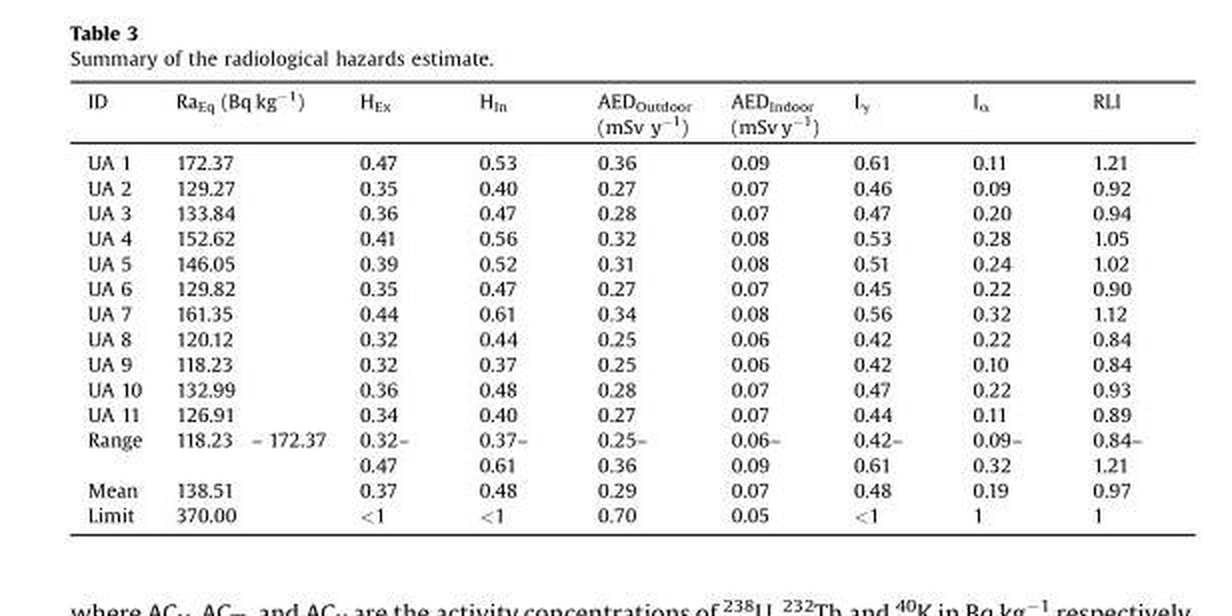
<table><thead><tr><td>ID</td><td>Ra<sub>Eq</sub> (Bq kg<sup>−1</sup>)</td><td>H<sub>Ex</sub></td><td>H<sub>In</sub></td><td>AED<sub>Outdoor</sub> (mSv y<sup>−1</sup>)</td><td>AED<sub>Indoor</sub> (mSv y<sup>−1</sup>)</td><td>I<sub>γ</sub></td><td>I<sub>α</sub></td><td>RLI</td></tr></thead><tbody><tr><td>UA 1</td><td>172.37</td><td>0.47</td><td>0.53</td><td>0.36</td><td>0.09</td><td>0.61</td><td>0.11</td><td>1.21</td></tr><tr><td>UA 2</td><td>129.27</td><td>0.35</td><td>0.40</td><td>0.27</td><td>0.07</td><td>0.46</td><td>0.09</td><td>0.92</td></tr><tr><td>UA 3</td><td>133.84</td><td>0.36</td><td>0.47</td><td>0.28</td><td>0.07</td><td>0.47</td><td>0.20</td><td>0.94</td></tr><tr><td>UA 4</td><td>152.62</td><td>0.41</td><td>0.56</td><td>0.32</td><td>0.08</td><td>0.53</td><td>0.28</td><td>1.05</td></tr><tr><td>UA 5</td><td>146.05</td><td>0.39</td><td>0.52</td><td>0.31</td><td>0.08</td><td>0.51</td><td>0.24</td><td>1.02</td></tr><tr><td>UA 6</td><td>129.82</td><td>0.35</td><td>0.47</td><td>0.27</td><td>0.07</td><td>0.45</td><td>0.22</td><td>0.90</td></tr><tr><td>UA 7</td><td>161.35</td><td>0.44</td><td>0.61</td><td>0.34</td><td>0.08</td><td>0.56</td><td>0.32</td><td>1.12</td></tr><tr><td>UA 8</td><td>120.12</td><td>0.32</td><td>0.44</td><td>0.25</td><td>0.06</td><td>0.42</td><td>0.22</td><td>0.84</td></tr><tr><td>UA 9</td><td>118.23</td><td>0.32</td><td>0.37</td><td>0.25</td><td>0.06</td><td>0.42</td><td>0.10</td><td>0.84</td></tr><tr><td>UA 10</td><td>132.99</td><td>0.36</td><td>0.48</td><td>0.28</td><td>0.07</td><td>0.47</td><td>0.22</td><td>0.93</td></tr><tr><td>UA 11</td><td>126.91</td><td>0.34</td><td>0.40</td><td>0.27</td><td>0.07</td><td>0.44</td><td>0.11</td><td>0.89</td></tr><tr><td>Range</td><td>118.23 – 172.37</td><td>0.32– 0.47</td><td>0.37– 0.61</td><td>0.25– 0.36</td><td>0.06– 0.09</td><td>0.42– 0.61</td><td>0.09– 0.32</td><td>0.84– 1.21</td></tr><tr><td>Mean</td><td>138.51</td><td>0.37</td><td>0.48</td><td>0.29</td><td>0.07</td><td>0.48</td><td>0.19</td><td>0.97</td></tr><tr><td>Limit</td><td>370.00</td><td>&lt;1</td><td>&lt;1</td><td>0.70</td><td>0.05</td><td>&lt;1</td><td>1</td><td>1</td></tr></tbody></table>